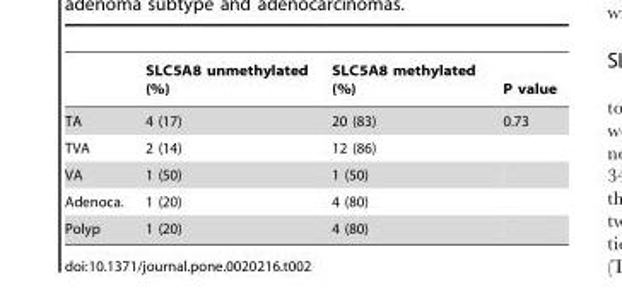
<table><thead><tr><td></td><td>SLC5A8 unmethylated (%)</td><td>SLC5A8 methylated (%)</td><td>P value</td></tr></thead><tbody><tr><td>TA</td><td>4 (17)</td><td>20 (83)</td><td>0.73</td></tr><tr><td>TVA</td><td>2 (14)</td><td>12 (86)</td><td></td></tr><tr><td>VA</td><td>1 (50)</td><td>1 (50)</td><td></td></tr><tr><td>Adenoca.</td><td>1 (20)</td><td>4 (80)</td><td></td></tr><tr><td>Polyp</td><td>1 (20)</td><td>4 (80)</td><td></td></tr></tbody></table>